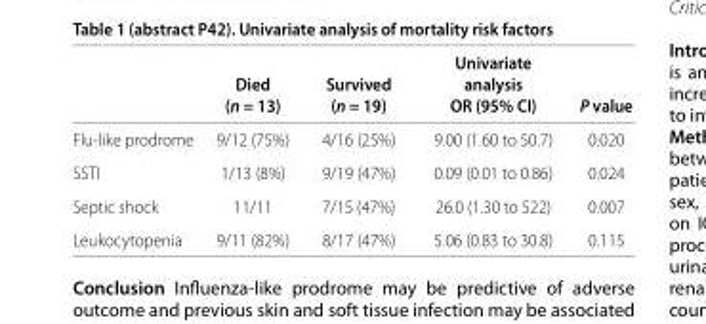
<table><thead><tr><td></td><td>Died (n = 13)</td><td>Survived (n = 19)</td><td>analysis OR (95% CI)</td><td>P value</td></tr></thead><tbody><tr><td>Flu-like prodrome</td><td>9/12 (75%)</td><td>4/16 (25%)</td><td>9.00 (1.60 to 50.7)</td><td>0.020</td></tr><tr><td>SSTI</td><td>1/13 (8%)</td><td>9/19 (47%)</td><td>0.09 (0.01 to 0.86)</td><td>0.024</td></tr><tr><td>Septic shock</td><td>11/11</td><td>7/15 (47%)</td><td>26.0 (1.30 to 522)</td><td>0.007</td></tr><tr><td>Leukocytopenia</td><td>9/11 (82%)</td><td>8/17 (47%)</td><td>5.06 (0.83 to 30.8)</td><td>0.115</td></tr></tbody></table>